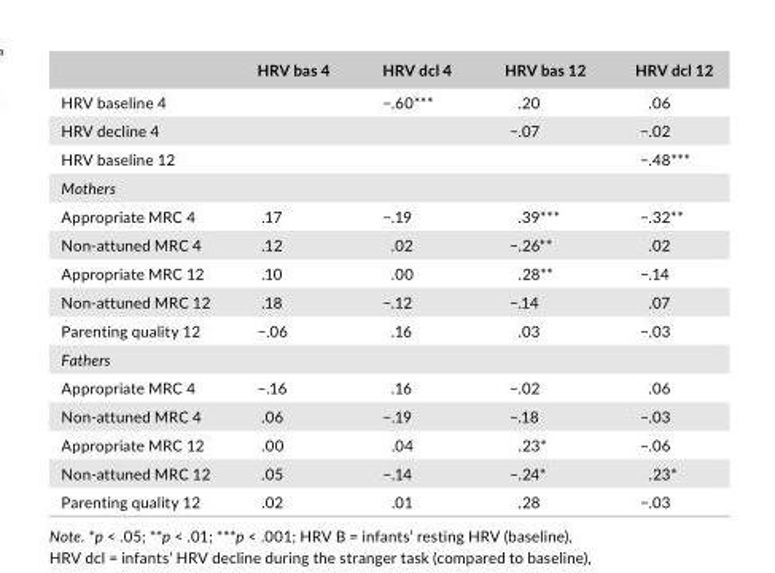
<table><thead><tr><td></td><td>HRV bas 4</td><td>HRV dcl 4</td><td>HRV bas 12</td><td>HRV dcl 12</td></tr></thead><tbody><tr><td>HRV baseline 4</td><td></td><td>−.60***</td><td>.20</td><td>.06</td></tr><tr><td>HRV decline 4</td><td></td><td></td><td>−.07</td><td>−.02</td></tr><tr><td>HRV baseline 12</td><td></td><td></td><td></td><td>−.48***</td></tr><tr><td colspan="5">Mothers</td></tr><tr><td>Appropriate MRC 4</td><td>.17</td><td>−.19</td><td>.39***</td><td>−.32**</td></tr><tr><td>Non- attuned MRC 4</td><td>.12</td><td>.02</td><td>−.26**</td><td>.02</td></tr><tr><td>Appropriate MRC 12</td><td>.10</td><td>.00</td><td>.28**</td><td>−.14</td></tr><tr><td>Non- attuned MRC 12</td><td>.18</td><td>−.12</td><td>−.14</td><td>.07</td></tr><tr><td>Parenting quality 12</td><td>−.06</td><td>.16</td><td>.03</td><td>−.03</td></tr><tr><td colspan="5">Fathers</td></tr><tr><td>Appropriate MRC 4</td><td>−.16</td><td>.16</td><td>−.02</td><td>.06</td></tr><tr><td>Non- attuned MRC 4</td><td>.06</td><td>−.19</td><td>−.18</td><td>−.03</td></tr><tr><td>Appropriate MRC 12</td><td>.00</td><td>.04</td><td>.23*</td><td>−.06</td></tr><tr><td>Non- attuned MRC 12</td><td>.05</td><td>−.14</td><td>−.24*</td><td>.23*</td></tr><tr><td>Parenting quality 12</td><td>.02</td><td>.01</td><td>.28</td><td>−.03</td></tr></tbody></table>